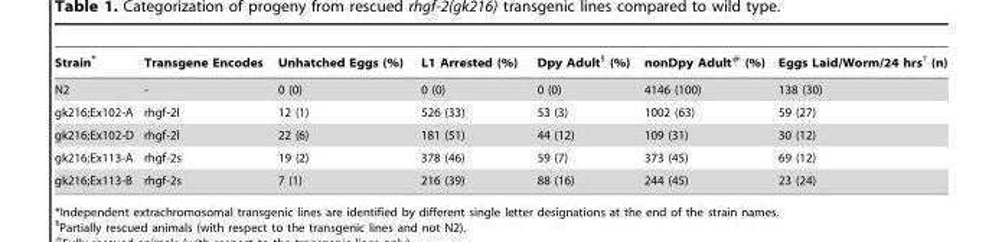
<table><thead><tr><td>Strain*</td><td>Transgene Encodes</td><td>Unhatched Eggs (%)</td><td>L1 Arrested (%)</td><td>Dpy Adult§ (%)</td><td>nonDpy Adult# (%)</td><td>Eggs Laid/Worm/24 hrs† (n)</td></tr></thead><tbody><tr><td>N2</td><td>-</td><td>0 (0)</td><td>0 (0)</td><td>0 (0)</td><td>4146 (100)</td><td>138 (30)</td></tr><tr><td>gk216;Ex102-A</td><td>rhgf-2l</td><td>12 (1)</td><td>526 (33)</td><td>53 (3)</td><td>1002 (63)</td><td>59 (27)</td></tr><tr><td>gk216;Ex102-D</td><td>rhgf-2l</td><td>22 (6)</td><td>181 (51)</td><td>44 (12)</td><td>109 (31)</td><td>30 (12)</td></tr><tr><td>gk216;Ex113-A</td><td>rhgf-2s</td><td>19 (2)</td><td>378 (46)</td><td>59 (7)</td><td>373 (45)</td><td>69 (12)</td></tr><tr><td>gk216;Ex113-B</td><td>rhgf-2s</td><td>7 (1)</td><td>216 (39)</td><td>88 (16)</td><td>244 (45)</td><td>23 (24)</td></tr></tbody></table>